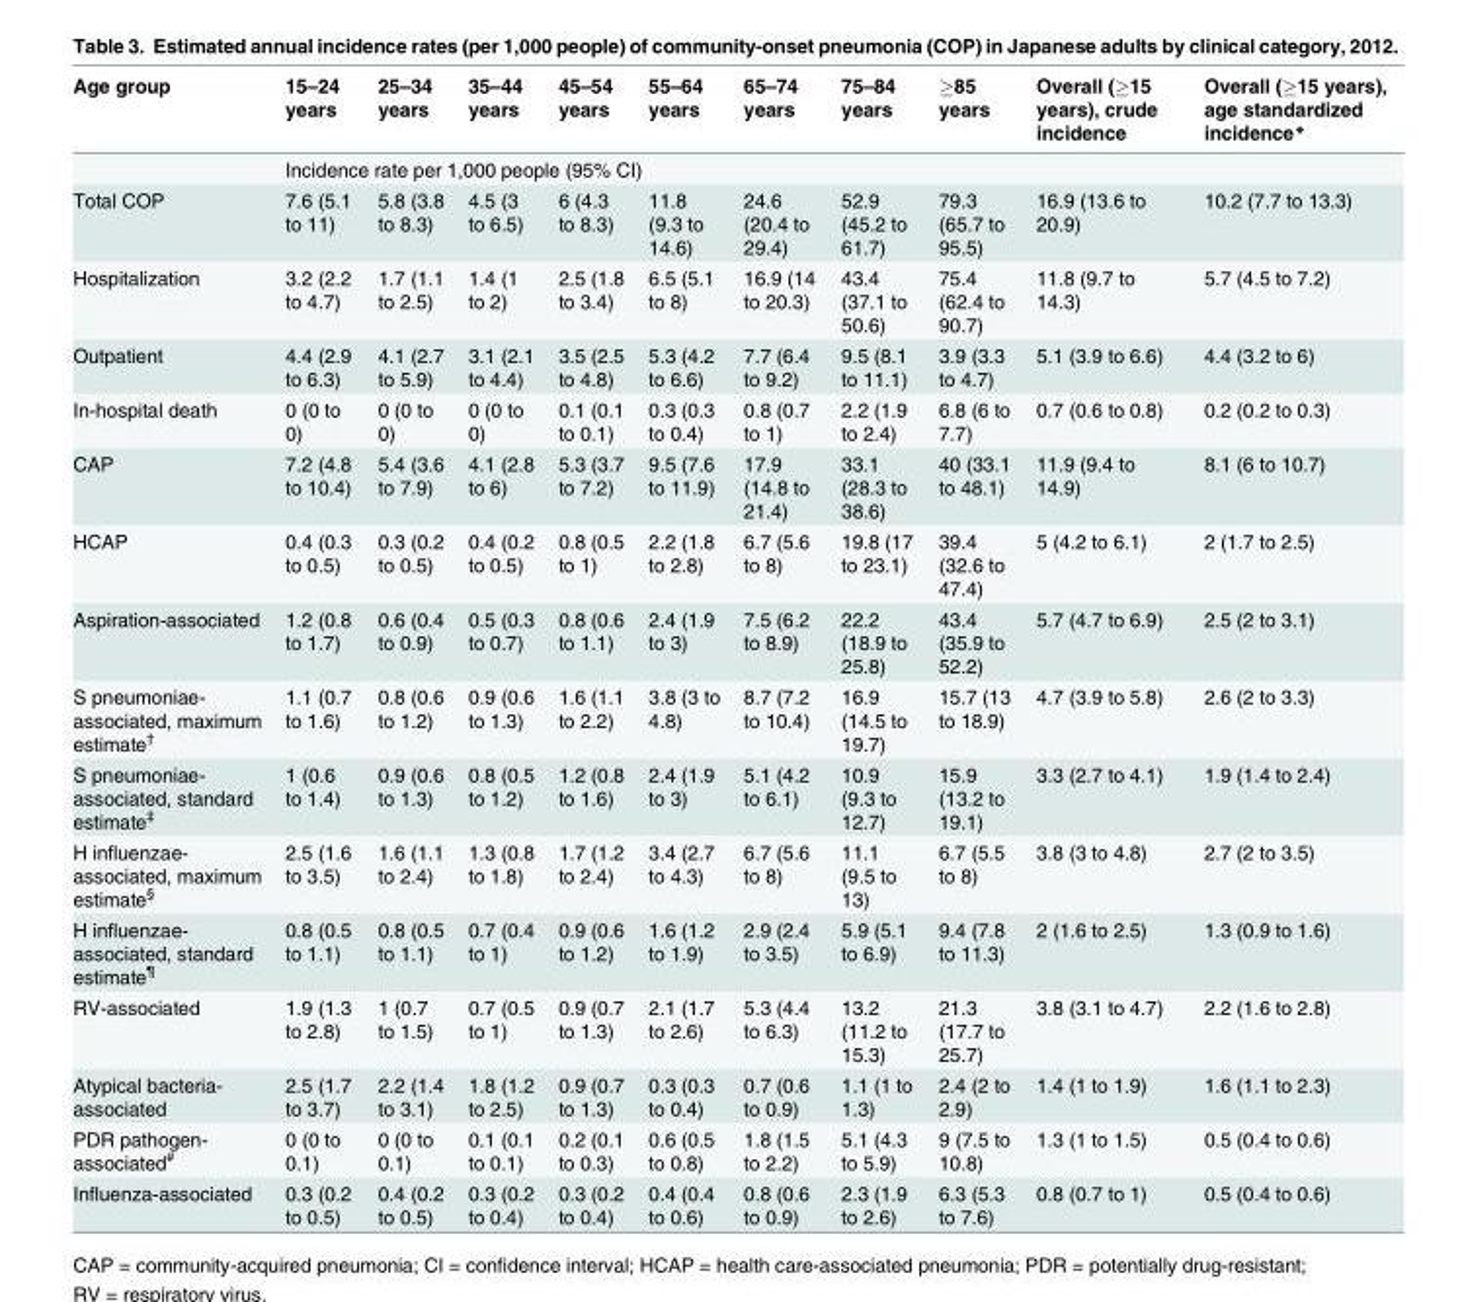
<table><thead><tr><td>Age group</td><td>15–24 years</td><td>25–34 years</td><td>35–44 years</td><td>45–54 years</td><td>55–64 years</td><td>65–74 years</td><td>75–84 years</td><td>≥85 years</td><td>Overall (≥15 years), crude incidence</td><td>Overall (≥15 years), age standardized incidence*</td></tr></thead><tbody><tr><td></td><td colspan="10">Incidence rate per 1,000 people (95% CI)</td></tr><tr><td>Total COP</td><td>7.6 (5.1 to 11)</td><td>5.8 (3.8 to 8.3)</td><td>4.5 (3 to 6.5)</td><td>6 (4.3 to 8.3)</td><td>11.8 (9.3 to 14.6)</td><td>24.6 (20.4 to 29.4)</td><td>52.9 (45.2 to 61.7)</td><td>79.3 (65.7 to 95.5)</td><td>16.9 (13.6 to 20.9)</td><td>10.2 (7.7 to 13.3)</td></tr><tr><td>Hospitalization</td><td>3.2 (2.2 to 4.7)</td><td>1.7 (1.1 to 2.5)</td><td>1.4 (1 to 2)</td><td>2.5 (1.8 to 3.4)</td><td>6.5 (5.1 to 8)</td><td>16.9 (14 to 20.3)</td><td>43.4 (37.1 to 50.6)</td><td>75.4 (62.4 to 90.7)</td><td>11.8 (9.7 to 14.3)</td><td>5.7 (4.5 to 7.2)</td></tr><tr><td>Outpatient</td><td>4.4 (2.9 to 6.3)</td><td>4.1 (2.7 to 5.9)</td><td>3.1 (2.1 to 4.4)</td><td>3.5 (2.5 to 4.8)</td><td>5.3 (4.2 to 6.6)</td><td>7.7 (6.4 to 9.2)</td><td>9.5 (8.1 to 11.1)</td><td>3.9 (3.3 to 4.7)</td><td>5.1 (3.9 to 6.6)</td><td>4.4 (3.2 to 6)</td></tr><tr><td>In-hospital death</td><td>0 (0 to 0)</td><td>0 (0 to 0)</td><td>0 (0 to 0)</td><td>0.1 (0.1 to 0.1)</td><td>0.3 (0.3 to 0.4)</td><td>0.8 (0.7 to 1)</td><td>2.2 (1.9 to 2.4)</td><td>6.8 (6 to 7.7)</td><td>0.7 (0.6 to 0.8)</td><td>0.2 (0.2 to 0.3)</td></tr><tr><td>CAP</td><td>7.2 (4.8 to 10.4)</td><td>5.4 (3.6 to 7.9)</td><td>4.1 (2.8 to 6)</td><td>5.3 (3.7 to 7.2)</td><td>9.5 (7.6 to 11.9)</td><td>17.9 (14.8 to 21.4)</td><td>33.1 (28.3 to 38.6)</td><td>40 (33.1 to 48.1)</td><td>11.9 (9.4 to 14.9)</td><td>8.1 (6 to 10.7)</td></tr><tr><td>HCAP</td><td>0.4 (0.3 to 0.5)</td><td>0.3 (0.2 to 0.5)</td><td>0.4 (0.2 to 0.5)</td><td>0.8 (0.5 to 1)</td><td>2.2 (1.8 to 2.8)</td><td>6.7 (5.6 to 8)</td><td>19.8 (17 to 23.1)</td><td>39.4 (32.6 to 47.4)</td><td>5 (4.2 to 6.1)</td><td>2 (1.7 to 2.5)</td></tr><tr><td>Aspiration-associated</td><td>1.2 (0.8 to 1.7)</td><td>0.6 (0.4 to 0.9)</td><td>0.5 (0.3 to 0.7)</td><td>0.8 (0.6 to 1.1)</td><td>2.4 (1.9 to 3)</td><td>7.5 (6.2 to 8.9)</td><td>22.2 (18.9 to 25.8)</td><td>43.4 (35.9 to 52.2)</td><td>5.7 (4.7 to 6.9)</td><td>2.5 (2 to 3.1)</td></tr><tr><td>S pneumoniae- associated, maximum estimate<sup>†</sup></td><td>1.1 (0.7 to 1.6)</td><td>0.8 (0.6 to 1.2)</td><td>0.9 (0.6 to 1.3)</td><td>1.6 (1.1 to 2.2)</td><td>3.8 (3 to 4.8)</td><td>8.7 (7.2 to 10.4)</td><td>16.9 (14.5 to 19.7)</td><td>15.7 (13 to 18.9)</td><td>4.7 (3.9 to 5.8)</td><td>2.6 (2 to 3.3)</td></tr><tr><td>S pneumoniae- associated, standard estimate<sup>‡</sup></td><td>1 (0.6 to 1.4)</td><td>0.9 (0.6 to 1.3)</td><td>0.8 (0.5 to 1.2)</td><td>1.2 (0.8 to 1.6)</td><td>2.4 (1.9 to 3)</td><td>5.1 (4.2 to 6.1)</td><td>10.9 (9.3 to 12.7)</td><td>15.9 (13.2 to 19.1)</td><td>3.3 (2.7 to 4.1)</td><td>1.9 (1.4 to 2.4)</td></tr><tr><td>H influenzae- associated, maximum estimate<sup>§</sup></td><td>2.5 (1.6 to 3.5)</td><td>1.6 (1.1 to 2.4)</td><td>1.3 (0.8 to 1.8)</td><td>1.7 (1.2 to 2.4)</td><td>3.4 (2.7 to 4.3)</td><td>6.7 (5.6 to 8)</td><td>11.1 (9.5 to 13)</td><td>6.7 (5.5 to 8)</td><td>3.8 (3 to 4.8)</td><td>2.7 (2 to 3.5)</td></tr><tr><td>H influenzae- associated, standard estimate<sup>¶</sup></td><td>0.8 (0.5 to 1.1)</td><td>0.8 (0.5 to 1.1)</td><td>0.7 (0.4 to 1)</td><td>0.9 (0.6 to 1.2)</td><td>1.6 (1.2 to 1.9)</td><td>2.9 (2.4 to 3.5)</td><td>5.9 (5.1 to 6.9)</td><td>9.4 (7.8 to 11.3)</td><td>2 (1.6 to 2.5)</td><td>1.3 (0.9 to 1.6)</td></tr><tr><td>RV-associated</td><td>1.9 (1.3 to 2.8)</td><td>1 (0.7 to 1.5)</td><td>0.7 (0.5 to 1)</td><td>0.9 (0.7 to 1.3)</td><td>2.1 (1.7 to 2.6)</td><td>5.3 (4.4 to 6.3)</td><td>13.2 (11.2 to 15.3)</td><td>21.3 (17.7 to 25.7)</td><td>3.8 (3.1 to 4.7)</td><td>2.2 (1.6 to 2.8)</td></tr><tr><td>Atypical bacteria- associated</td><td>2.5 (1.7 to 3.7)</td><td>2.2 (1.4 to 3.1)</td><td>1.8 (1.2 to 2.5)</td><td>0.9 (0.7 to 1.3)</td><td>0.3 (0.3 to 0.4)</td><td>0.7 (0.6 to 0.9)</td><td>1.1 (1 to 1.3)</td><td>2.4 (2 to 2.9)</td><td>1.4 (1 to 1.9)</td><td>1.6 (1.1 to 2.3)</td></tr><tr><td>PDR pathogen- associated<sup>#</sup></td><td>0 (0 to 0.1)</td><td>0 (0 to 0.1)</td><td>0.1 (0.1 to 0.1)</td><td>0.2 (0.1 to 0.3)</td><td>0.6 (0.5 to 0.8)</td><td>1.8 (1.5 to 2.2)</td><td>5.1 (4.3 to 5.9)</td><td>9 (7.5 to 10.8)</td><td>1.3 (1 to 1.5)</td><td>0.5 (0.4 to 0.6)</td></tr><tr><td>Influenza-associated</td><td>0.3 (0.2 to 0.5)</td><td>0.4 (0.2 to 0.5)</td><td>0.3 (0.2 to 0.4)</td><td>0.3 (0.2 to 0.4)</td><td>0.4 (0.4 to 0.6)</td><td>0.8 (0.6 to 0.9)</td><td>2.3 (1.9 to 2.6)</td><td>6.3 (5.3 to 7.6)</td><td>0.8 (0.7 to 1)</td><td>0.5 (0.4 to 0.6)</td></tr></tbody></table>